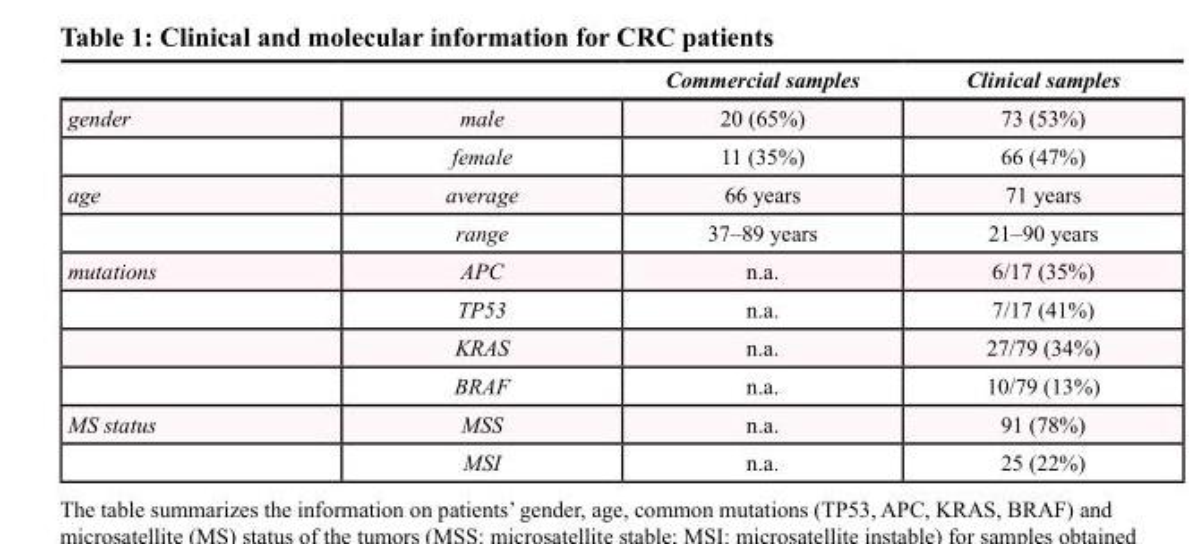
<table><thead><tr><td></td><td></td><td>Commercial samples</td><td>Clinical samples</td></tr></thead><tbody><tr><td rowspan="2">gender</td><td>male</td><td>20 (65%)</td><td>73 (53%)</td></tr><tr><td>female</td><td>11 (35%)</td><td>66 (47%)</td></tr><tr><td rowspan="2">age</td><td>average</td><td>66 years</td><td>71 years</td></tr><tr><td>range</td><td>37–89 years</td><td>21–90 years</td></tr><tr><td rowspan="4">mutations</td><td>APC</td><td>n.a.</td><td>6/17 (35%)</td></tr><tr><td>TP53</td><td>n.a.</td><td>7/17 (41%)</td></tr><tr><td>KRAS</td><td>n.a.</td><td>27/79 (34%)</td></tr><tr><td>BRAF</td><td>n.a.</td><td>10/79 (13%)</td></tr><tr><td rowspan="2">MS status</td><td>MSS</td><td>n.a.</td><td>91 (78%)</td></tr><tr><td>MSI</td><td>n.a.</td><td>25 (22%)</td></tr></tbody></table>